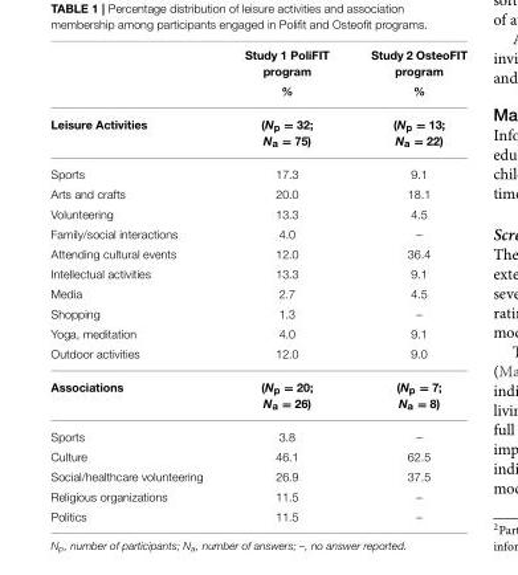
<table><thead><tr><td rowspan="2">Leisure Activities</td><td rowspan="2">Study 1 PoliFIT program % (N<sub>p</sub> = 32; N<sub>a</sub> = 75)</td><td rowspan="2">Study 2 OsteoFIT program % (N<sub>p</sub> = 13; N<sub>a</sub> = 22)</td></tr><tr></tr></thead><tbody><tr><td>Sports</td><td>17.3</td><td>9.1</td></tr><tr><td>Arts and crafts</td><td>20.0</td><td>18.1</td></tr><tr><td>Volunteering</td><td>13.3</td><td>4.5</td></tr><tr><td>Family/social interactions</td><td>4.0</td><td>–</td></tr><tr><td>Attending cultural events</td><td>12.0</td><td>36.4</td></tr><tr><td>Intellectual activities</td><td>13.3</td><td>9.1</td></tr><tr><td>Media</td><td>2.7</td><td>4.5</td></tr><tr><td>Shopping</td><td>1.3</td><td>–</td></tr><tr><td>Yoga, meditation</td><td>4.0</td><td>9.1</td></tr><tr><td>Outdoor activities</td><td>12.0</td><td>9.0</td></tr><tr><td>Associations</td><td>(N<sub>p</sub> = 20; N<sub>a</sub> = 26)</td><td>(N<sub>p</sub> = 7; N<sub>a</sub> = 8)</td></tr><tr><td>Sports</td><td>3.8</td><td>–</td></tr><tr><td>Culture</td><td>46.1</td><td>62.5</td></tr><tr><td>Social/healthcare volunteering</td><td>26.9</td><td>37.5</td></tr><tr><td>Religious organizations</td><td>11.5</td><td>–</td></tr><tr><td>Politics</td><td>11.5</td><td>–</td></tr></tbody></table>